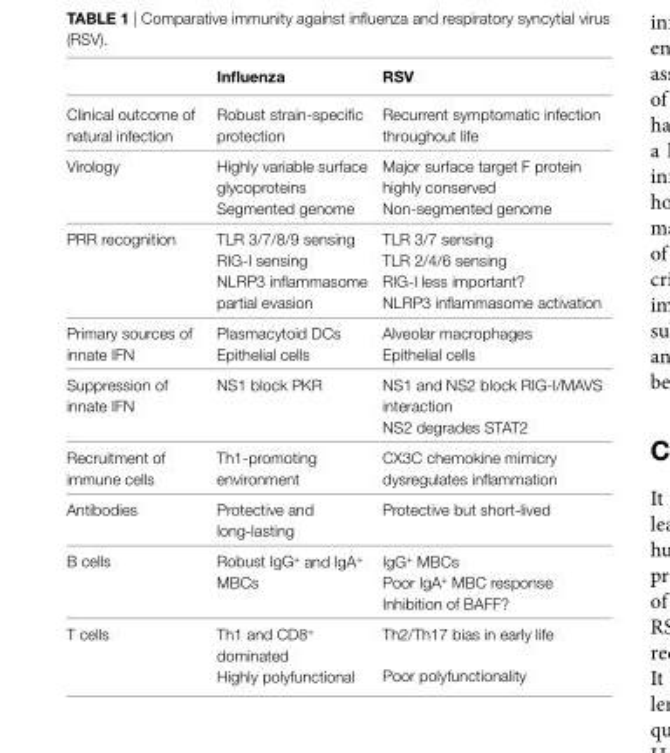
<table><thead><tr><td></td><td>influenza</td><td>RSv</td></tr></thead><tbody><tr><td>Clinical outcome of natural infection</td><td>Robust strain-specific protection</td><td>Recurrent symptomatic infection throughout life</td></tr><tr><td>Virology</td><td>Highly variable surface glycoproteins Segmented genome</td><td>Major surface target F protein highly conserved Non-segmented genome</td></tr><tr><td>PRR recognition</td><td>TLR 3/7/8/9 sensing RIG-I sensing NLRP3 inflammasome partial evasion</td><td>TLR 3/7 sensing TLR 2/4/6 sensing RIG-I less important? NLRP3 inflammasome activation</td></tr><tr><td>Primary sources of innate IFN</td><td>Plasmacytoid DCs Epithelial cells</td><td>Alveolar macrophages Epithelial cells</td></tr><tr><td>Suppression of innate IFN</td><td>NS1 block PKR</td><td>NS1 and NS2 block RIG-I/MAVS interaction NS2 degrades STAT2</td></tr><tr><td>Recruitment of immune cells</td><td>Th1-promoting environment</td><td>CX3C chemokine mimicry dysregulates inflammation</td></tr><tr><td>Antibodies</td><td>Protective and long-lasting</td><td>Protective but short-lived</td></tr><tr><td>B cells</td><td>Robust IgG<sup>+</sup> and IgA<sup>+</sup> MBCs</td><td>IgG<sup>+</sup> MBCs Poor IgA<sup>+</sup> MBC response Inhibition of BAFF?</td></tr><tr><td>T cells</td><td>Th1 and CD8<sup>+</sup> dominated Highly polyfunctional</td><td>Th2/Th17 bias in early life Poor polyfunctionality</td></tr></tbody></table>